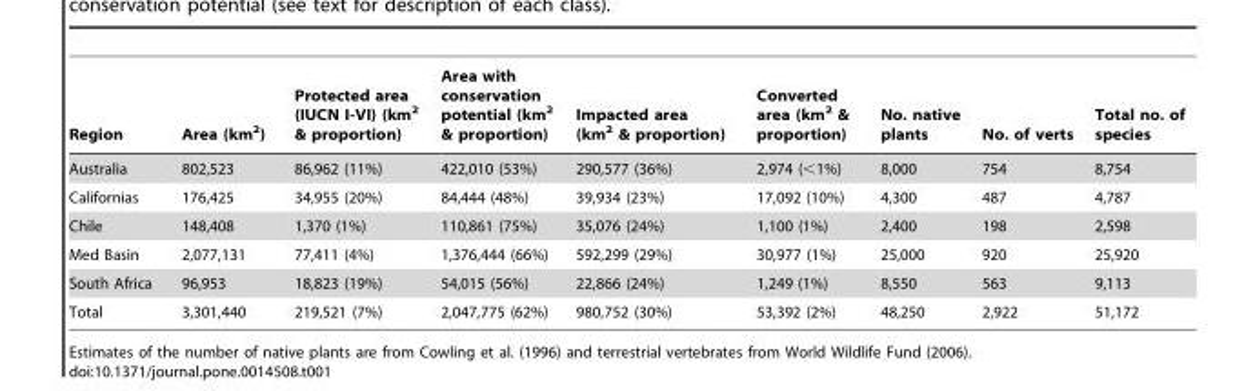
<table><thead><tr><td>Region</td><td>Area (km<sup>2</sup>)</td><td>Protected area (IUCN I-VI) (km<sup>2</sup> &amp; proportion)</td><td>Area with conservation potential (km<sup>2</sup> &amp; proportion)</td><td>Impacted area (km<sup>2</sup> &amp; proportion)</td><td>Converted area (km<sup>2</sup> &amp; proportion)</td><td>No. native plants</td><td>No. of verts</td><td>Total no. of species</td></tr></thead><tbody><tr><td>Australia</td><td>802,523</td><td>86,962 (11%)</td><td>422,010 (53%)</td><td>290,577 (36%)</td><td>2,974 (&lt;1%)</td><td>8,000</td><td>754</td><td>8,754</td></tr><tr><td>Californias</td><td>176,425</td><td>34,955 (20%)</td><td>84,444 (48%)</td><td>39,934 (23%)</td><td>17,092 (10%)</td><td>4,300</td><td>487</td><td>4,787</td></tr><tr><td>Chile</td><td>148,408</td><td>1,370 (1%)</td><td>110,861 (75%)</td><td>35,076 (24%)</td><td>1,100 (1%)</td><td>2,400</td><td>198</td><td>2,598</td></tr><tr><td>Med Basin</td><td>2,077,131</td><td>77,411 (4%)</td><td>1,376,444 (66%)</td><td>592,299 (29%)</td><td>30,977 (1%)</td><td>25,000</td><td>920</td><td>25,920</td></tr><tr><td>South Africa</td><td>96,953</td><td>18,823 (19%)</td><td>54,015 (56%)</td><td>22,866 (24%)</td><td>1,249 (1%)</td><td>8,550</td><td>563</td><td>9,113</td></tr><tr><td>Total</td><td>3,301,440</td><td>219,521 (7%)</td><td>2,047,775 (62%)</td><td>980,752 (30%)</td><td>53,392 (2%)</td><td>48,250</td><td>2,922</td><td>51,172</td></tr></tbody></table>